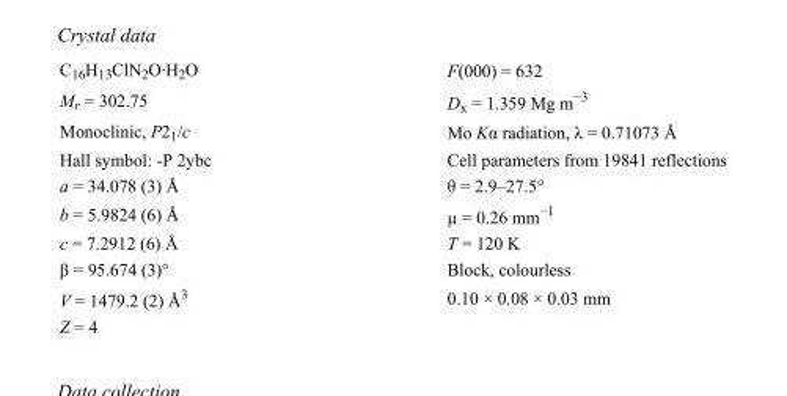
<table><tbody><tr><td>C<sub>16</sub>H<sub>13</sub>ClN<sub>2</sub>O·H<sub>2</sub>O</td><td>F(000) = 632</td></tr><tr><td>M<sub>r</sub> = 302.75</td><td>D<sub>x</sub> = 1.359 Mg m<sup>−3</sup></td></tr><tr><td>Monoclinic, P2<sub>1</sub>/c</td><td>Mo Kα radiation, λ = 0.71073 Å</td></tr><tr><td>Hall symbol: -P 2ybc</td><td>Cell parameters from 19841 reflections</td></tr><tr><td>a = 34.078 (3) Å</td><td>θ = 2.9–27.5°</td></tr><tr><td>b = 5.9824 (6) Å</td><td>µ = 0.26 mm<sup>−1</sup></td></tr><tr><td>c = 7.2912 (6) Å</td><td>T = 120 K</td></tr><tr><td>β = 95.674 (3)°</td><td>Block, colourless</td></tr><tr><td>V = 1479.2 (2) Å<sup>3</sup></td><td>0.10 × 0.08 × 0.03 mm</td></tr><tr><td>Z = 4</td><td></td></tr></tbody></table>